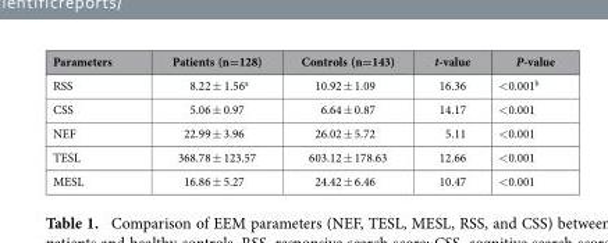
<table><thead><tr><td>Parameters</td><td>Patients (n=128)</td><td>Controls (n=143)</td><td>t-value</td><td>P-value</td></tr></thead><tbody><tr><td>RSS</td><td>8.22 ± 1.56<sup>a</sup></td><td>10.92 ± 1.09</td><td>16.36</td><td>&lt;0.001<sup>b</sup></td></tr><tr><td>CSS</td><td>5.06 ± 0.97</td><td>6.64 ± 0.87</td><td>14.17</td><td>&lt;0.001</td></tr><tr><td>NEF</td><td>22.99 ± 3.96</td><td>26.02 ± 5.72</td><td>5.11</td><td>&lt;0.001</td></tr><tr><td>TESL</td><td>368.78 ± 123.57</td><td>603.12 ± 178.63</td><td>12.66</td><td>&lt;0.001</td></tr><tr><td>MESL</td><td>16.86 ± 5.27</td><td>24.42 ± 6.46</td><td>10.47</td><td>&lt;0.001</td></tr></tbody></table>